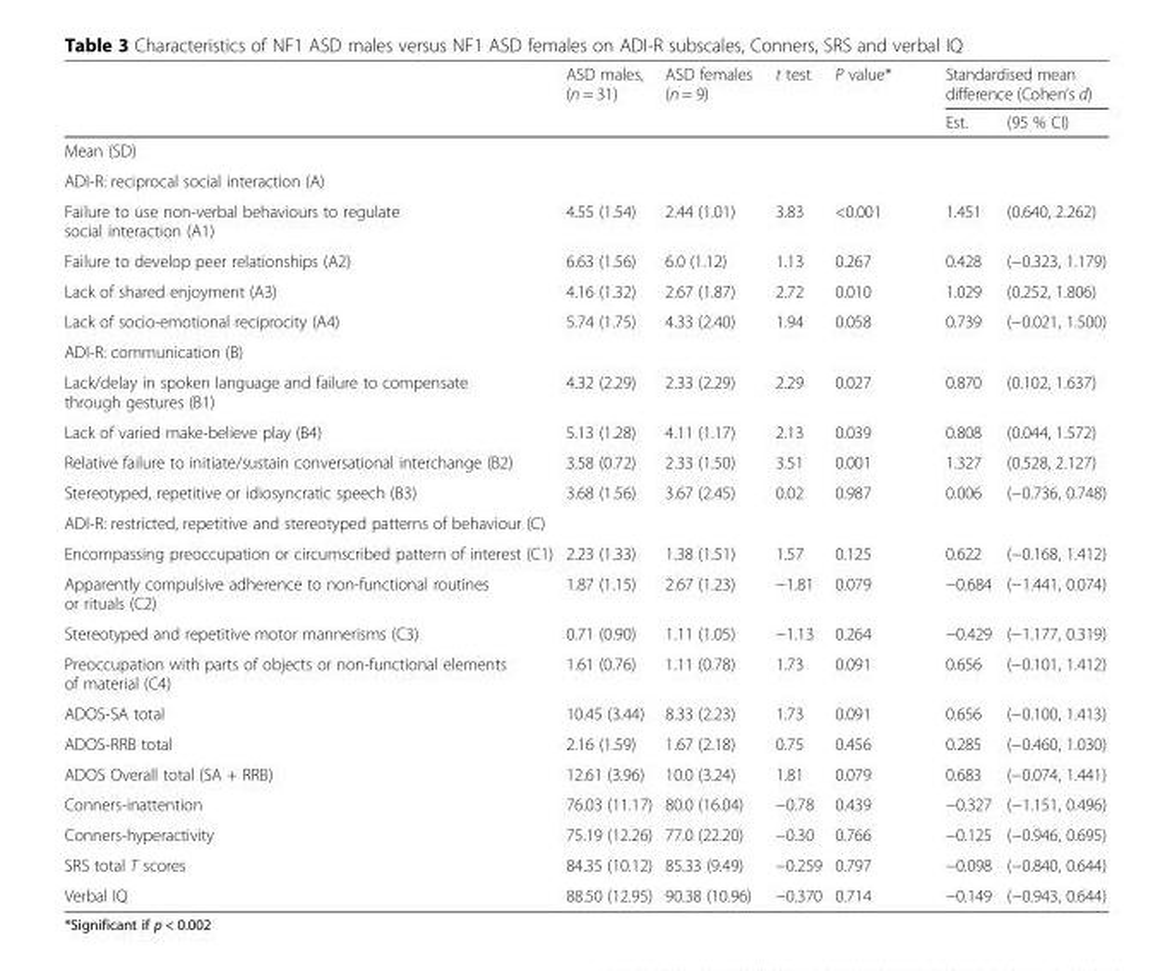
<table><thead><tr><td rowspan="2"></td><td rowspan="2">ASD males, (n = 31)</td><td rowspan="2">ASD females (n = 9)</td><td rowspan="2">t test</td><td rowspan="2">P value*</td><td colspan="2">Standardised mean difference (Cohen’s d)</td></tr><tr><td>Est.</td><td>(95 % CI)</td></tr></thead><tbody><tr><td colspan="7">Mean (SD)</td></tr><tr><td colspan="7">ADI-R: reciprocal social interaction (A)</td></tr><tr><td>Failure to use non-verbal behaviours to regulate social interaction (A1)</td><td>4.55 (1.54)</td><td>2.44 (1.01)</td><td>3.83</td><td>&lt;0.001</td><td>1.451</td><td>(0.640, 2.262)</td></tr><tr><td>Failure to develop peer relationships (A2)</td><td>6.63 (1.56)</td><td>6.0 (1.12)</td><td>1.13</td><td>0.267</td><td>0.428</td><td>(−0.323, 1.179)</td></tr><tr><td>Lack of shared enjoyment (A3)</td><td>4.16 (1.32)</td><td>2.67 (1.87)</td><td>2.72</td><td>0.010</td><td>1.029</td><td>(0.252, 1.806)</td></tr><tr><td>Lack of socio-emotional reciprocity (A4)</td><td>5.74 (1.75)</td><td>4.33 (2.40)</td><td>1.94</td><td>0.058</td><td>0.739</td><td>(−0.021, 1.500)</td></tr><tr><td colspan="7">ADI-R: communication (B)</td></tr><tr><td>Lack/delay in spoken language and failure to compensate through gestures (B1)</td><td>4.32 (2.29)</td><td>2.33 (2.29)</td><td>2.29</td><td>0.027</td><td>0.870</td><td>(0.102, 1.637)</td></tr><tr><td>Lack of varied make-believe play (B4)</td><td>5.13 (1.28)</td><td>4.11 (1.17)</td><td>2.13</td><td>0.039</td><td>0.808</td><td>(0.044, 1.572)</td></tr><tr><td>Relative failure to initiate/sustain conversational interchange (B2)</td><td>3.58 (0.72)</td><td>2.33 (1.50)</td><td>3.51</td><td>0.001</td><td>1.327</td><td>(0.528, 2.127)</td></tr><tr><td>Stereotyped, repetitive or idiosyncratic speech (B3)</td><td>3.68 (1.56)</td><td>3.67 (2.45)</td><td>0.02</td><td>0.987</td><td>0.006</td><td>(−0.736, 0.748)</td></tr><tr><td colspan="7">ADI-R: restricted, repetitive and stereotyped patterns of behaviour (C)</td></tr><tr><td>Encompassing preoccupation or circumscribed pattern of interest (C1)</td><td>2.23 (1.33)</td><td>1.38 (1.51)</td><td>1.57</td><td>0.125</td><td>0.622</td><td>(−0.168, 1.412)</td></tr><tr><td>Apparently compulsive adherence to non-functional routines or rituals (C2)</td><td>1.87 (1.15)</td><td>2.67 (1.23)</td><td>−1.81</td><td>0.079</td><td>−0.684</td><td>(−1.441, 0.074)</td></tr><tr><td>Stereotyped and repetitive motor mannerisms (C3)</td><td>0.71 (0.90)</td><td>1.11 (1.05)</td><td>−1.13</td><td>0.264</td><td>−0.429</td><td>(−1.177, 0.319)</td></tr><tr><td>Preoccupation with parts of objects or non-functional elements of material (C4)</td><td>1.61 (0.76)</td><td>1.11 (0.78)</td><td>1.73</td><td>0.091</td><td>0.656</td><td>(−0.101, 1.412)</td></tr><tr><td>ADOS-SA total</td><td>10.45 (3.44)</td><td>8.33 (2.23)</td><td>1.73</td><td>0.091</td><td>0.656</td><td>(−0.100, 1.413)</td></tr><tr><td>ADOS-RRB total</td><td>2.16 (1.59)</td><td>1.67 (2.18)</td><td>0.75</td><td>0.456</td><td>0.285</td><td>(−0.460, 1.030)</td></tr><tr><td>ADOS Overall total (SA + RRB)</td><td>12.61 (3.96)</td><td>10.0 (3.24)</td><td>1.81</td><td>0.079</td><td>0.683</td><td>(−0.074, 1.441)</td></tr><tr><td>Conners-inattention</td><td>76.03 (11.17)</td><td>80.0 (16.04)</td><td>−0.78</td><td>0.439</td><td>−0.327</td><td>(−1.151, 0.496)</td></tr><tr><td>Conners-hyperactivity</td><td>75.19 (12.26)</td><td>77.0 (22.20)</td><td>−0.30</td><td>0.766</td><td>−0.125</td><td>(−0.946, 0.695)</td></tr><tr><td>SRS total T scores</td><td>84.35 (10.12)</td><td>85.33 (9.49)</td><td>−0.259</td><td>0.797</td><td>−0.098</td><td>(−0.840, 0.644)</td></tr><tr><td>Verbal IQ</td><td>88.50 (12.95)</td><td>90.38 (10.96)</td><td>−0.370</td><td>0.714</td><td>−0.149</td><td>(−0.943, 0.644)</td></tr></tbody></table>